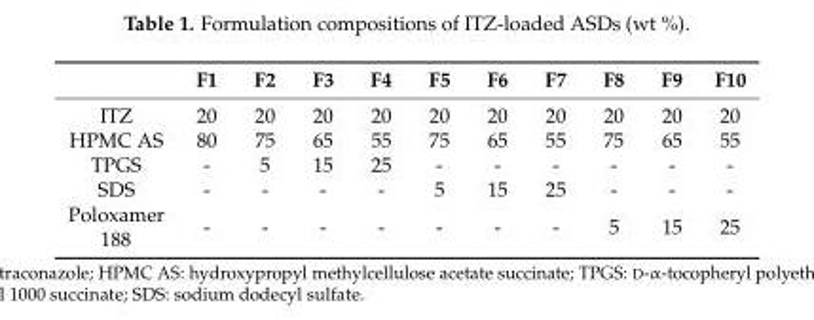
<table><thead><tr><td></td><td>F1</td><td>F2</td><td>F3</td><td>F4</td><td>F5</td><td>F6</td><td>F7</td><td>F8</td><td>F9</td><td>F10</td></tr></thead><tbody><tr><td>ITZ</td><td>20</td><td>20</td><td>20</td><td>20</td><td>20</td><td>20</td><td>20</td><td>20</td><td>20</td><td>20</td></tr><tr><td>HPMC AS</td><td>80</td><td>75</td><td>65</td><td>55</td><td>75</td><td>65</td><td>55</td><td>75</td><td>65</td><td>55</td></tr><tr><td>TPGS</td><td>-</td><td>5</td><td>15</td><td>25</td><td>-</td><td>-</td><td>-</td><td>-</td><td>-</td><td>-</td></tr><tr><td>SDS</td><td>-</td><td>-</td><td>-</td><td>-</td><td>5</td><td>15</td><td>25</td><td>-</td><td>-</td><td>-</td></tr><tr><td>Poloxamer 188</td><td>-</td><td>-</td><td>-</td><td>-</td><td>-</td><td>-</td><td>-</td><td>5</td><td>15</td><td>25</td></tr></tbody></table>